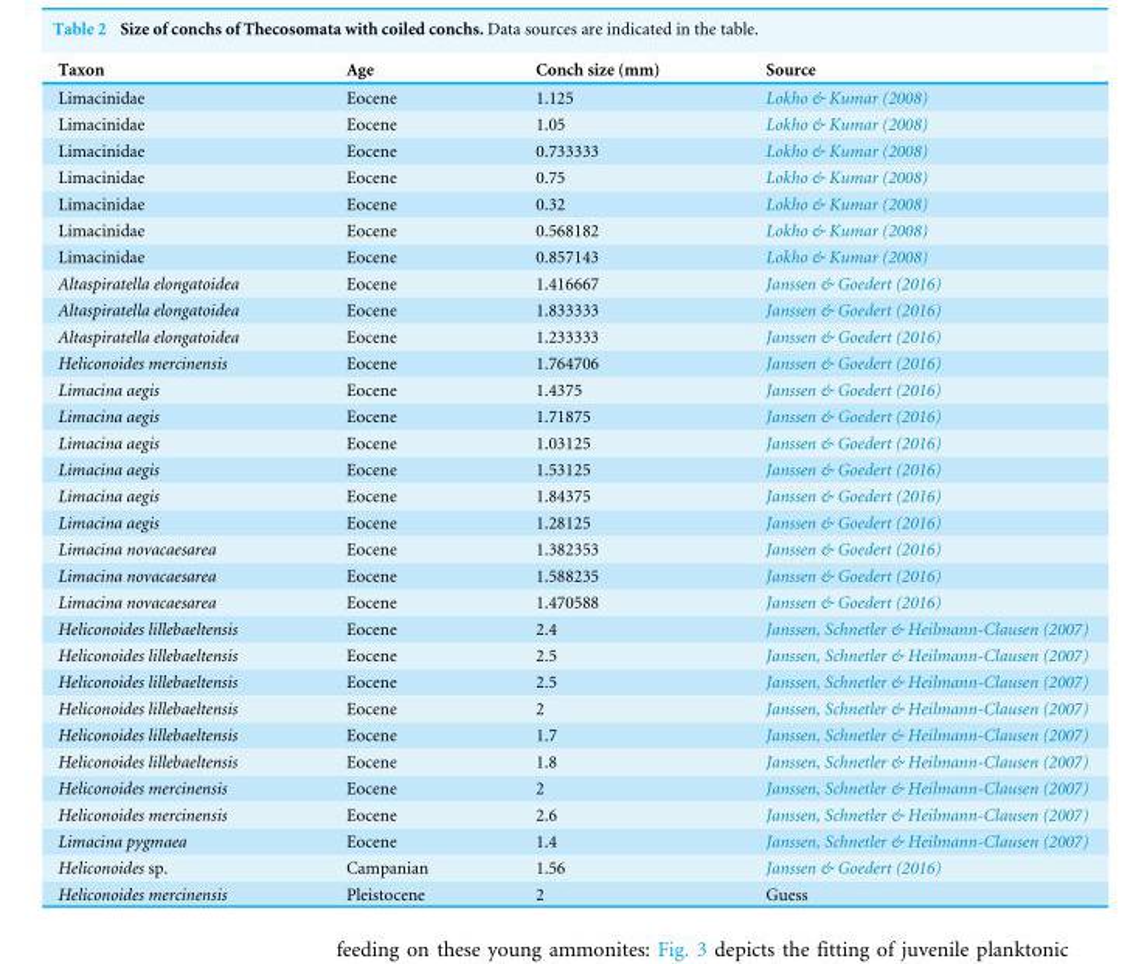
<table><thead><tr><td>Taxon</td><td>Age</td><td>Conch size (mm)</td><td>Source</td></tr></thead><tbody><tr><td>Limacinidae</td><td>Eocene</td><td>1.125</td><td>Lokho &amp; Kumar (2008)</td></tr><tr><td>Limacinidae</td><td>Eocene</td><td>1.05</td><td>Lokho &amp; Kumar (2008)</td></tr><tr><td>Limacinidae</td><td>Eocene</td><td>0.733333</td><td>Lokho &amp; Kumar (2008)</td></tr><tr><td>Limacinidae</td><td>Eocene</td><td>0.75</td><td>Lokho &amp; Kumar (2008)</td></tr><tr><td>Limacinidae</td><td>Eocene</td><td>0.32</td><td>Lokho &amp; Kumar (2008)</td></tr><tr><td>Limacinidae</td><td>Eocene</td><td>0.568182</td><td>Lokho &amp; Kumar (2008)</td></tr><tr><td>Limacinidae</td><td>Eocene</td><td>0.857143</td><td>Lokho &amp; Kumar (2008)</td></tr><tr><td>Altaspiratella elongatoidea</td><td>Eocene</td><td>1.416667</td><td>Janssen &amp; Goedert (2016)</td></tr><tr><td>Altaspiratella elongatoidea</td><td>Eocene</td><td>1.833333</td><td>Janssen &amp; Goedert (2016)</td></tr><tr><td>Altaspiratella elongatoidea</td><td>Eocene</td><td>1.233333</td><td>Janssen &amp; Goedert (2016)</td></tr><tr><td>Heliconoides mercinensis</td><td>Eocene</td><td>1.764706</td><td>Janssen &amp; Goedert (2016)</td></tr><tr><td>Limacina aegis</td><td>Eocene</td><td>1.4375</td><td>Janssen &amp; Goedert (2016)</td></tr><tr><td>Limacina aegis</td><td>Eocene</td><td>1.71875</td><td>Janssen &amp; Goedert (2016)</td></tr><tr><td>Limacina aegis</td><td>Eocene</td><td>1.03125</td><td>Janssen &amp; Goedert (2016)</td></tr><tr><td>Limacina aegis</td><td>Eocene</td><td>1.53125</td><td>Janssen &amp; Goedert (2016)</td></tr><tr><td>Limacina aegis</td><td>Eocene</td><td>1.84375</td><td>Janssen &amp; Goedert (2016)</td></tr><tr><td>Limacina aegis</td><td>Eocene</td><td>1.28125</td><td>Janssen &amp; Goedert (2016)</td></tr><tr><td>Limacina novacaesarea</td><td>Eocene</td><td>1.382353</td><td>Janssen &amp; Goedert (2016)</td></tr><tr><td>Limacina novacaesarea</td><td>Eocene</td><td>1.588235</td><td>Janssen &amp; Goedert (2016)</td></tr><tr><td>Limacina novacaesarea</td><td>Eocene</td><td>1.470588</td><td>Janssen &amp; Goedert (2016)</td></tr><tr><td>Heliconoides lillebaeltensis</td><td>Eocene</td><td>2.4</td><td>Janssen, Schnetler &amp; Heilmann-Clausen (2007)</td></tr><tr><td>Heliconoides lillebaeltensis</td><td>Eocene</td><td>2.5</td><td>Janssen, Schnetler &amp; Heilmann-Clausen (2007)</td></tr><tr><td>Heliconoides lillebaeltensis</td><td>Eocene</td><td>2.5</td><td>Janssen, Schnetler &amp; Heilmann-Clausen (2007)</td></tr><tr><td>Heliconoides lillebaeltensis</td><td>Eocene</td><td>2</td><td>Janssen, Schnetler &amp; Heilmann-Clausen (2007)</td></tr><tr><td>Heliconoides lillebaeltensis</td><td>Eocene</td><td>1.7</td><td>Janssen, Schnetler &amp; Heilmann-Clausen (2007)</td></tr><tr><td>Heliconoides lillebaeltensis</td><td>Eocene</td><td>1.8</td><td>Janssen, Schnetler &amp; Heilmann-Clausen (2007)</td></tr><tr><td>Heliconoides mercinensis</td><td>Eocene</td><td>2</td><td>Janssen, Schnetler &amp; Heilmann-Clausen (2007)</td></tr><tr><td>Heliconoides mercinensis</td><td>Eocene</td><td>2.6</td><td>Janssen, Schnetler &amp; Heilmann-Clausen (2007)</td></tr><tr><td>Limacina pygmaea</td><td>Eocene</td><td>1.4</td><td>Janssen, Schnetler &amp; Heilmann-Clausen (2007)</td></tr><tr><td>Heliconoides sp.</td><td>Campanian</td><td>1.56</td><td>Janssen &amp; Goedert (2016)</td></tr><tr><td>Heliconoides mercinensis</td><td>Pleistocene</td><td>2</td><td>Guess</td></tr></tbody></table>